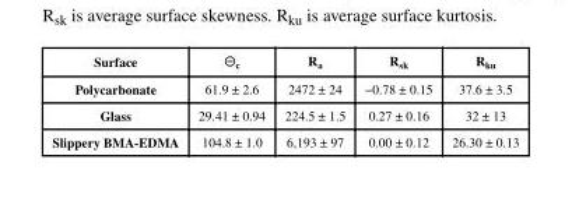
<table><thead><tr><td>Surface</td><td>⊝<sub>c</sub></td><td>R<sub>a</sub></td><td>R<sub>sk</sub></td><td>R<sub>ku</sub></td></tr></thead><tbody><tr><td>Polycarbonate</td><td>61.9 ± 2.6</td><td>2472 ± 24</td><td>−0.78 ± 0.15</td><td>37.6 ± 3.5</td></tr><tr><td>Glass</td><td>29.41 ± 0.94</td><td>224.5 ± 1.5</td><td>0.27 ± 0.16</td><td>32 ± 13</td></tr><tr><td>Slippery BMA-EDMA</td><td>104.8 ± 1.0</td><td>6,193 ± 97</td><td>0.00 ± 0.12</td><td>26.30 ± 0.13</td></tr></tbody></table>